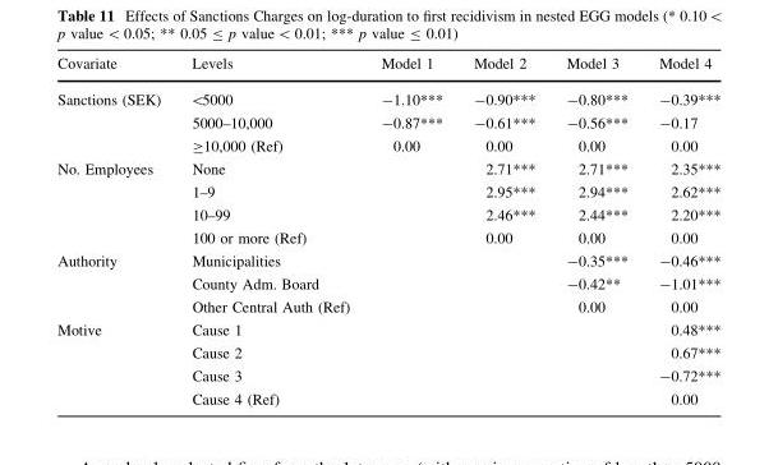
<table><thead><tr><td>Covariate</td><td>Levels</td><td>Model 1</td><td>Model 2</td><td>Model 3</td><td>Model 4</td></tr></thead><tbody><tr><td rowspan="3">Sanctions (SEK)</td><td>&lt;5000</td><td>-1.10***</td><td>-0.90***</td><td>-0.80***</td><td>-0.39***</td></tr><tr><td>5000–10,000</td><td>-0.87***</td><td>-0.61***</td><td>-0.56***</td><td>-0.17</td></tr><tr><td>≥10,000 (Ref)</td><td>0.00</td><td>0.00</td><td>0.00</td><td>0.00</td></tr><tr><td rowspan="4">No. Employees</td><td>None</td><td></td><td>2.71***</td><td>2.71***</td><td>2.35***</td></tr><tr><td>1–9</td><td></td><td>2.95***</td><td>2.94***</td><td>2.62***</td></tr><tr><td>10–99</td><td></td><td>2.46***</td><td>2.44***</td><td>2.20***</td></tr><tr><td>100 or more (Ref)</td><td></td><td>0.00</td><td>0.00</td><td>0.00</td></tr><tr><td rowspan="3">Authority</td><td>Municipalities</td><td></td><td></td><td>-0.35***</td><td>-0.46***</td></tr><tr><td>County Adm. Board</td><td></td><td></td><td>-0.42**</td><td>-1.01***</td></tr><tr><td>Other Central Auth (Ref)</td><td></td><td></td><td>0.00</td><td>0.00</td></tr><tr><td rowspan="4">Motive</td><td>Cause 1</td><td></td><td></td><td></td><td>0.48***</td></tr><tr><td>Cause 2</td><td></td><td></td><td></td><td>0.67***</td></tr><tr><td>Cause 3</td><td></td><td></td><td></td><td>-0.72***</td></tr><tr><td>Cause 4 (Ref)</td><td></td><td></td><td></td><td>0.00</td></tr></tbody></table>